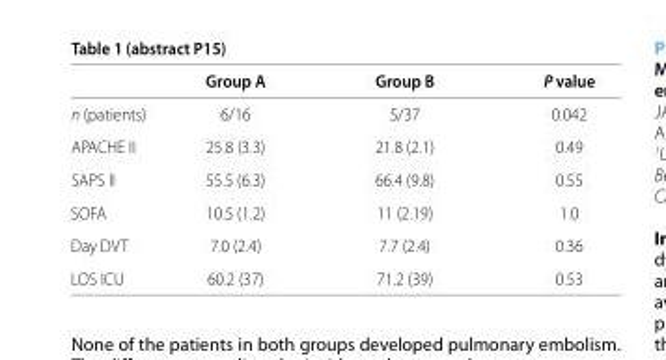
<table><thead><tr><td></td><td>Group A</td><td>Group B</td><td>P value</td></tr></thead><tbody><tr><td>n (patients)</td><td>6/16</td><td>5/37</td><td>0.042</td></tr><tr><td>APACHE II</td><td>25.8 (3.3)</td><td>21.8 (2.1)</td><td>0.49</td></tr><tr><td>SAPS II</td><td>55.5 (6.3)</td><td>66.4 (9.8)</td><td>0.55</td></tr><tr><td>SOFA</td><td>10.5 (1.2)</td><td>11 (2.19)</td><td>1.0</td></tr><tr><td>Day DVT</td><td>7.0 (2.4)</td><td>7.7 (2.4)</td><td>0.36</td></tr><tr><td>LOS ICU</td><td>60.2 (37)</td><td>71.2 (39)</td><td>0.53</td></tr></tbody></table>